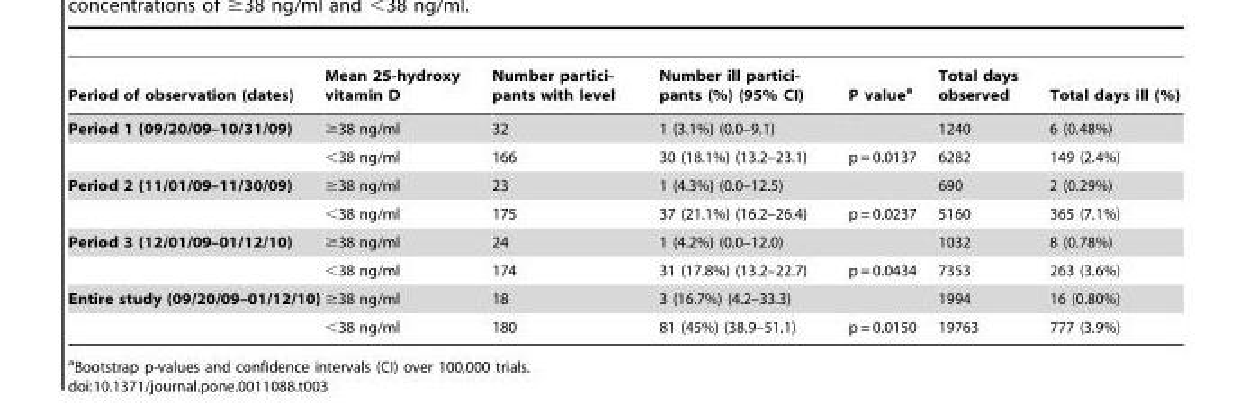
<table><thead><tr><td>Period of observation (dates)</td><td>Mean 25-hydroxy vitamin D</td><td>Number partici- pants with level</td><td>Number ill partici- pants (%) (95% CI)</td><td>P value<sup>a</sup></td><td>Total days observed</td><td>Total days ill (%)</td></tr></thead><tbody><tr><td rowspan="2">Period 1 (09/20/09–10/31/09)</td><td>≥38 ng/ml</td><td>32</td><td>1 (3.1%) (0.0–9.1)</td><td></td><td>1240</td><td>6 (0.48%)</td></tr><tr><td>&lt;38 ng/ml</td><td>166</td><td>30 (18.1%) (13.2–23.1)</td><td>p = 0.0137</td><td>6282</td><td>149 (2.4%)</td></tr><tr><td rowspan="2">Period 2 (11/01/09–11/30/09)</td><td>≥38 ng/ml</td><td>23</td><td>1 (4.3%) (0.0–12.5)</td><td></td><td>690</td><td>2 (0.29%)</td></tr><tr><td>&lt;38 ng/ml</td><td>175</td><td>37 (21.1%) (16.2–26.4)</td><td>p = 0.0237</td><td>5160</td><td>365 (7.1%)</td></tr><tr><td rowspan="2">Period 3 (12/01/09–01/12/10)</td><td>≥38 ng/ml</td><td>24</td><td>1 (4.2%) (0.0–12.0)</td><td></td><td>1032</td><td>8 (0.78%)</td></tr><tr><td>&lt;38 ng/ml</td><td>174</td><td>31 (17.8%) (13.2–22.7)</td><td>p = 0.0434</td><td>7353</td><td>263 (3.6%)</td></tr><tr><td rowspan="2">Entire study (09/20/09–01/12/10)</td><td>≥38 ng/ml</td><td>18</td><td>3 (16.7%) (4.2–33.3)</td><td></td><td>1994</td><td>16 (0.80%)</td></tr><tr><td>&lt;38 ng/ml</td><td>180</td><td>81 (45%) (38.9–51.1)</td><td>p = 0.0150</td><td>19763</td><td>777 (3.9%)</td></tr></tbody></table>